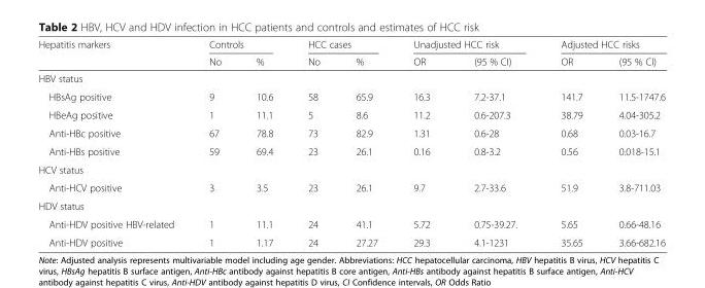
<table><thead><tr><td rowspan="2">Hepatitis markers</td><td colspan="2">Controls</td><td colspan="2">HCC cases</td><td colspan="2">Unadjusted HCC risk</td><td colspan="2">Adjusted HCC risks</td></tr><tr><td>No</td><td>%</td><td>No</td><td>%</td><td>OR</td><td>(95 % CI)</td><td>OR</td><td>(95 % CI)</td></tr></thead><tbody><tr><td colspan="9">HBV status</td></tr><tr><td>HBsAg positive</td><td>9</td><td>10.6</td><td>58</td><td>65.9</td><td>16.3</td><td>7.2-37.1</td><td>141.7</td><td>11.5-1747.6</td></tr><tr><td>HBeAg positive</td><td>1</td><td>11.1</td><td>5</td><td>8.6</td><td>11.2</td><td>0.6-207.3</td><td>38.79</td><td>4.04-305.2</td></tr><tr><td>Anti-HBc positive</td><td>67</td><td>78.8</td><td>73</td><td>82.9</td><td>1.31</td><td>0.6-28</td><td>0.68</td><td>0.03-16.7</td></tr><tr><td>Anti-HBs positive</td><td>59</td><td>69.4</td><td>23</td><td>26.1</td><td>0.16</td><td>0.8-3.2</td><td>0.56</td><td>0.018-15.1</td></tr><tr><td colspan="9">HCV status</td></tr><tr><td>Anti-HCV positive</td><td>3</td><td>3.5</td><td>23</td><td>26.1</td><td>9.7</td><td>2.7-33.6</td><td>51.9</td><td>3.8-711.03</td></tr><tr><td colspan="9">HDV status</td></tr><tr><td>Anti-HDV positive HBV-related</td><td>1</td><td>11.1</td><td>24</td><td>41.1</td><td>5.72</td><td>0.75-39.27.</td><td>5.65</td><td>0.66-48.16</td></tr><tr><td>Anti-HDV positive</td><td>1</td><td>1.17</td><td>24</td><td>27.27</td><td>29.3</td><td>4.1-1231</td><td>35.65</td><td>3.66-682.16</td></tr></tbody></table>